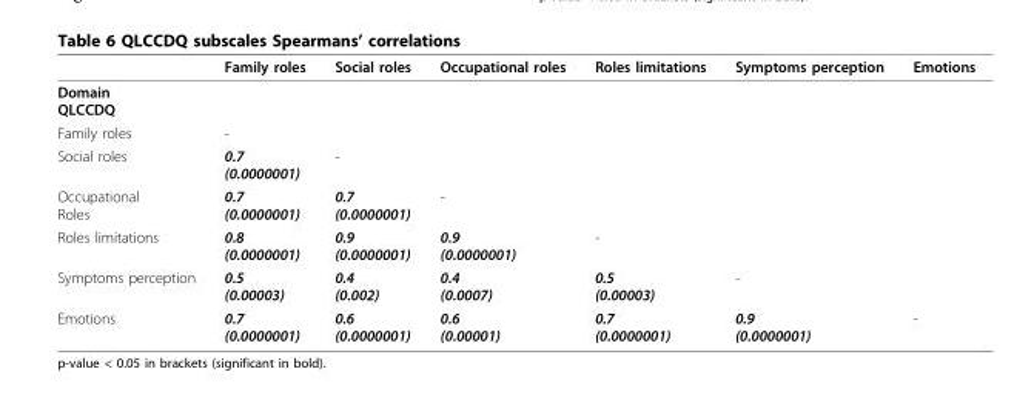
<table><thead><tr><td></td><td>Family roles</td><td>Social roles</td><td>Occupational roles</td><td>Roles limitations</td><td>Symptoms perception</td><td>Emotions</td></tr></thead><tbody><tr><td colspan="7">Domain QLCCDQ</td></tr><tr><td>Family roles</td><td>-</td><td></td><td></td><td></td><td></td><td></td></tr><tr><td>Social roles</td><td>0.7 (0.0000001)</td><td>-</td><td></td><td></td><td></td><td></td></tr><tr><td>Occupational Roles</td><td>0.7 (0.0000001)</td><td>0.7 (0.0000001)</td><td>-</td><td></td><td></td><td></td></tr><tr><td>Roles limitations</td><td>0.8 (0.0000001)</td><td>0.9 (0.0000001)</td><td>0.9 (0.0000001)</td><td>-</td><td></td><td></td></tr><tr><td>Symptoms perception</td><td>0.5 (0.00003)</td><td>0.4 (0.002)</td><td>0.4 (0.0007)</td><td>0.5 (0.00003)</td><td>-</td><td></td></tr><tr><td>Emotions</td><td>0.7 (0.0000001)</td><td>0.6 (0.0000001)</td><td>0.6 (0.00001)</td><td>0.7 (0.0000001)</td><td>0.9 (0.0000001)</td><td>-</td></tr></tbody></table>